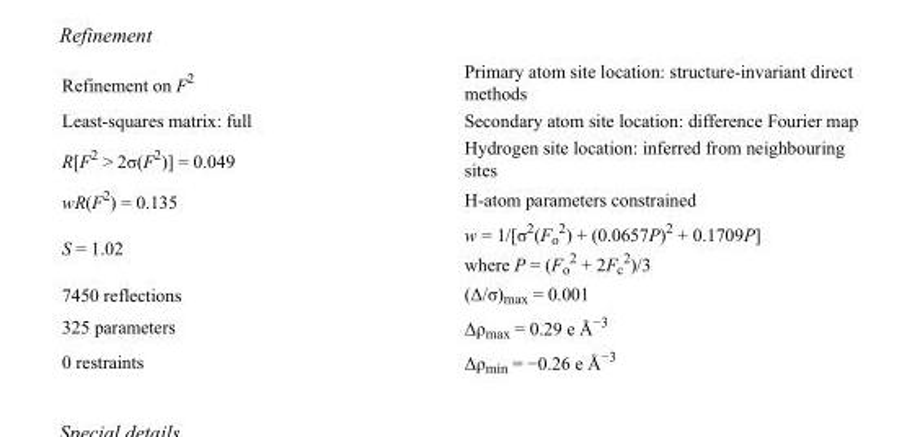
<table><tbody><tr><td>Refinement on F<sup>2</sup></td><td>Primary atom site location: structure-invariant direct methods</td></tr><tr><td>Least-squares matrix: full</td><td>Secondary atom site location: difference Fourier map</td></tr><tr><td>R[F<sup>2</sup> &gt; 2σ(F<sup>2</sup>)] = 0.049</td><td>Hydrogen site location: inferred from neighbouring sites</td></tr><tr><td>wR(F<sup>2</sup>) = 0.135</td><td>H-atom parameters constrained</td></tr><tr><td>S = 1.02</td><td>w = 1/[σ<sup>2</sup>(F<sub>o</sub> <sup>2</sup>) + (0.0657P)<sup>2</sup> + 0.1709P] where P = (F<sub>o</sub> <sup>2</sup> + 2F<sub>c</sub> <sup>2</sup>)/3</td></tr><tr><td>7450 reflections</td><td>(Δ/σ)<sub>max</sub> = 0.001</td></tr><tr><td>325 parameters</td><td>Δρ<sub>max</sub> = 0.29 e Å<sup>−3</sup></td></tr><tr><td>0 restraints</td><td>Δρ<sub>min</sub> = −0.26 e Å<sup>−3</sup></td></tr></tbody></table>